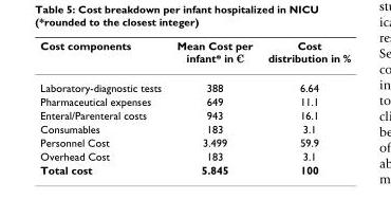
<table><thead><tr><td>Cost components</td><td>Mean Cost per infant* in €</td><td>Cost distribution in %</td></tr></thead><tbody><tr><td>Laboratory-diagnostic tests</td><td>388</td><td>6.64</td></tr><tr><td>Pharmaceutical expenses</td><td>649</td><td>11.1</td></tr><tr><td>Enteral/Parenteral costs</td><td>943</td><td>16.1</td></tr><tr><td>Consumables</td><td>183</td><td>3.1</td></tr><tr><td>Personnel Cost</td><td>3.499</td><td>59.9</td></tr><tr><td>Overhead Cost</td><td>183</td><td>3.1</td></tr><tr><td>Total cost</td><td>5.845</td><td>100</td></tr></tbody></table>